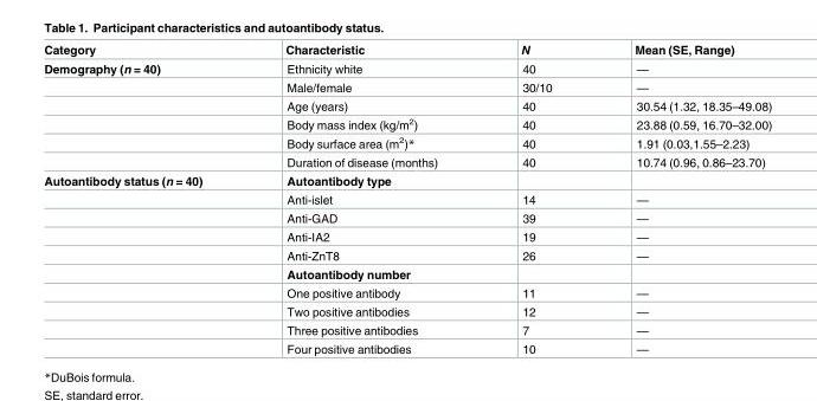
<table><thead><tr><td>Category</td><td>Characteristic</td><td>N</td><td>Mean (SE, Range)</td></tr></thead><tbody><tr><td rowspan="6">Demography (n = 40)</td><td>Ethnicity white</td><td>40</td><td>—</td></tr><tr><td>Male/female</td><td>30/10</td><td>—</td></tr><tr><td>Age (years)</td><td>40</td><td>30.54 (1.32, 18.35–49.08)</td></tr><tr><td>Body mass index (kg/m<sup>2</sup>)</td><td>40</td><td>23.88 (0.59, 16.70–32.00)</td></tr><tr><td>Body surface area (m<sup>2</sup>)*</td><td>40</td><td>1.91 (0.03,1.55–2.23)</td></tr><tr><td>Duration of disease (months)</td><td>40</td><td>10.74 (0.96, 0.86–23.70)</td></tr><tr><td rowspan="10">Autoantibody status (n = 40)</td><td>Autoantibody type</td><td></td><td></td></tr><tr><td>Anti-islet</td><td>14</td><td>—</td></tr><tr><td>Anti-GAD</td><td>39</td><td>—</td></tr><tr><td>Anti-IA2</td><td>19</td><td>—</td></tr><tr><td>Anti-ZnT8</td><td>26</td><td>—</td></tr><tr><td>Autoantibody number</td><td></td><td></td></tr><tr><td>One positive antibody</td><td>11</td><td>—</td></tr><tr><td>Two positive antibodies</td><td>12</td><td>—</td></tr><tr><td>Three positive antibodies</td><td>7</td><td>—</td></tr><tr><td>Four positive antibodies</td><td>10</td><td>—</td></tr></tbody></table>